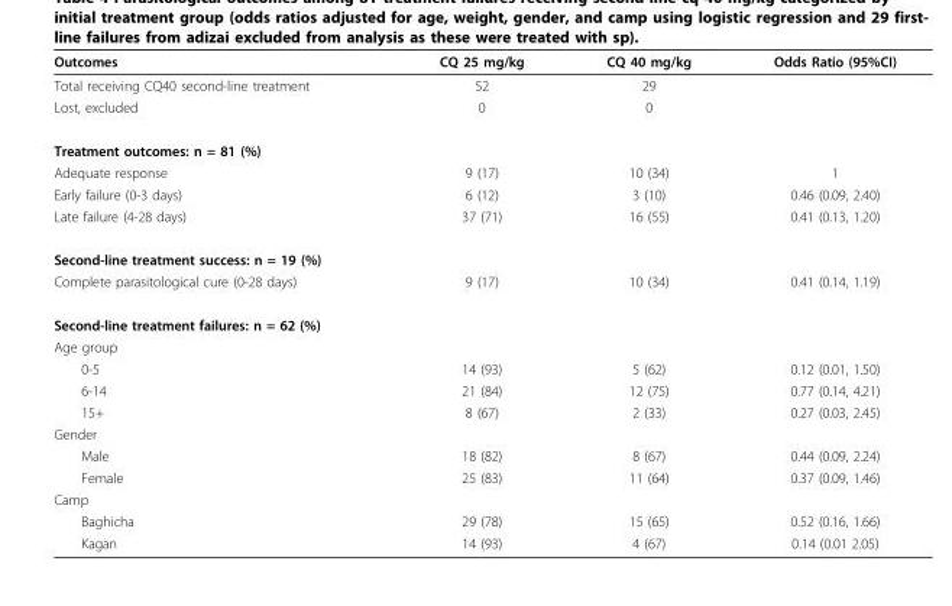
<table><thead><tr><td>Outcomes</td><td>CQ 25 mg/kg</td><td>CQ 40 mg/kg</td><td>Odds Ratio (95%CI)</td></tr></thead><tbody><tr><td>Total receiving CQ40 second-line treatment</td><td>52</td><td>29</td><td></td></tr><tr><td>Lost, excluded</td><td>0</td><td>0</td><td></td></tr><tr><td colspan="4">Treatment outcomes: n = 81 (%)</td></tr><tr><td>Adequate response</td><td>9 (17)</td><td>10 (34)</td><td>1</td></tr><tr><td>Early failure (0-3 days)</td><td>6 (12)</td><td>3 (10)</td><td>0.46 (0.09, 2.40)</td></tr><tr><td>Late failure (4-28 days)</td><td>37 (71)</td><td>16 (55)</td><td>0.41 (0.13, 1.20)</td></tr><tr><td colspan="4">Second-line treatment success: n = 19 (%)</td></tr><tr><td>Complete parasitological cure (0-28 days)</td><td>9 (17)</td><td>10 (34)</td><td>0.41 (0.14, 1.19)</td></tr><tr><td colspan="4">Second-line treatment failures: n = 62 (%)</td></tr><tr><td colspan="4">Age group</td></tr><tr><td>0-5</td><td>14 (93)</td><td>5 (62)</td><td>0.12 (0.01, 1.50)</td></tr><tr><td>6-14</td><td>21 (84)</td><td>12 (75)</td><td>0.77 (0.14, 4.21)</td></tr><tr><td>15+</td><td>8 (67)</td><td>2 (33)</td><td>0.27 (0.03, 2.45)</td></tr><tr><td colspan="4">Gender</td></tr><tr><td>Male</td><td>18 (82)</td><td>8 (67)</td><td>0.44 (0.09, 2.24)</td></tr><tr><td>Female</td><td>25 (83)</td><td>11 (64)</td><td>0.37 (0.09, 1.46)</td></tr><tr><td colspan="4">Camp</td></tr><tr><td>Baghicha</td><td>29 (78)</td><td>15 (65)</td><td>0.52 (0.16, 1.66)</td></tr><tr><td>Kagan</td><td>14 (93)</td><td>4 (67)</td><td>0.14 (0.01 2.05)</td></tr></tbody></table>